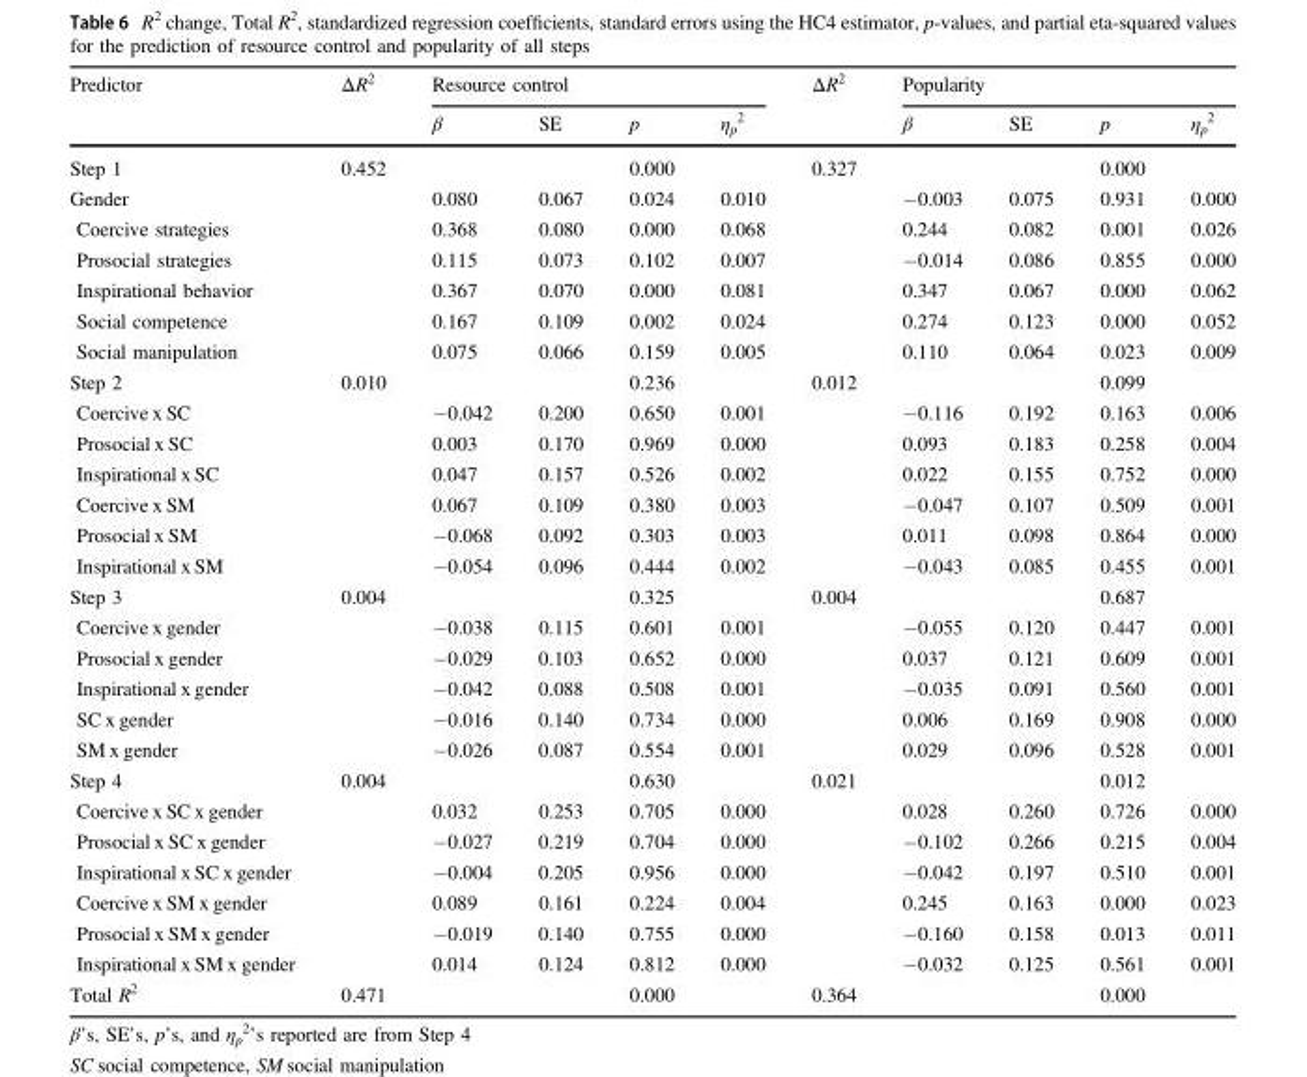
<table><thead><tr><td rowspan="2">Predictor</td><td rowspan="2">ΔR<sup>2</sup></td><td colspan="4">Resource control</td><td rowspan="2">ΔR<sup>2</sup></td><td colspan="4">Popularity</td></tr><tr><td>β</td><td>SE</td><td>p</td><td>η<sub>p</sub> <sup>2</sup></td><td>β</td><td>SE</td><td>p</td><td>η<sub>p</sub> <sup>2</sup></td></tr></thead><tbody><tr><td>Step 1</td><td>0.452</td><td></td><td></td><td>0.000</td><td></td><td>0.327</td><td></td><td></td><td>0.000</td><td></td></tr><tr><td>Gender</td><td></td><td>0.080</td><td>0.067</td><td>0.024</td><td>0.010</td><td></td><td>−0.003</td><td>0.075</td><td>0.931</td><td>0.000</td></tr><tr><td>Coercive strategies</td><td></td><td>0.368</td><td>0.080</td><td>0.000</td><td>0.068</td><td></td><td>0.244</td><td>0.082</td><td>0.001</td><td>0.026</td></tr><tr><td>Prosocial strategies</td><td></td><td>0.115</td><td>0.073</td><td>0.102</td><td>0.007</td><td></td><td>−0.014</td><td>0.086</td><td>0.855</td><td>0.000</td></tr><tr><td>Inspirational behavior</td><td></td><td>0.367</td><td>0.070</td><td>0.000</td><td>0.081</td><td></td><td>0.347</td><td>0.067</td><td>0.000</td><td>0.062</td></tr><tr><td>Social competence</td><td></td><td>0.167</td><td>0.109</td><td>0.002</td><td>0.024</td><td></td><td>0.274</td><td>0.123</td><td>0.000</td><td>0.052</td></tr><tr><td>Social manipulation</td><td></td><td>0.075</td><td>0.066</td><td>0.159</td><td>0.005</td><td></td><td>0.110</td><td>0.064</td><td>0.023</td><td>0.009</td></tr><tr><td>Step 2</td><td>0.010</td><td></td><td></td><td>0.236</td><td></td><td>0.012</td><td></td><td></td><td>0.099</td><td></td></tr><tr><td>Coercive x SC</td><td></td><td>−0.042</td><td>0.200</td><td>0.650</td><td>0.001</td><td></td><td>−0.116</td><td>0.192</td><td>0.163</td><td>0.006</td></tr><tr><td>Prosocial x SC</td><td></td><td>0.003</td><td>0.170</td><td>0.969</td><td>0.000</td><td></td><td>0.093</td><td>0.183</td><td>0.258</td><td>0.004</td></tr><tr><td>Inspirational x SC</td><td></td><td>0.047</td><td>0.157</td><td>0.526</td><td>0.002</td><td></td><td>0.022</td><td>0.155</td><td>0.752</td><td>0.000</td></tr><tr><td>Coercive x SM</td><td></td><td>0.067</td><td>0.109</td><td>0.380</td><td>0.003</td><td></td><td>−0.047</td><td>0.107</td><td>0.509</td><td>0.001</td></tr><tr><td>Prosocial x SM</td><td></td><td>−0.068</td><td>0.092</td><td>0.303</td><td>0.003</td><td></td><td>0.011</td><td>0.098</td><td>0.864</td><td>0.000</td></tr><tr><td>Inspirational x SM</td><td></td><td>−0.054</td><td>0.096</td><td>0.444</td><td>0.002</td><td></td><td>−0.043</td><td>0.085</td><td>0.455</td><td>0.001</td></tr><tr><td>Step 3</td><td>0.004</td><td></td><td></td><td>0.325</td><td></td><td>0.004</td><td></td><td></td><td>0.687</td><td></td></tr><tr><td>Coercive x gender</td><td></td><td>−0.038</td><td>0.115</td><td>0.601</td><td>0.001</td><td></td><td>−0.055</td><td>0.120</td><td>0.447</td><td>0.001</td></tr><tr><td>Prosocial x gender</td><td></td><td>−0.029</td><td>0.103</td><td>0.652</td><td>0.000</td><td></td><td>0.037</td><td>0.121</td><td>0.609</td><td>0.001</td></tr><tr><td>Inspirational x gender</td><td></td><td>−0.042</td><td>0.088</td><td>0.508</td><td>0.001</td><td></td><td>−0.035</td><td>0.091</td><td>0.560</td><td>0.001</td></tr><tr><td>SC x gender</td><td></td><td>−0.016</td><td>0.140</td><td>0.734</td><td>0.000</td><td></td><td>0.006</td><td>0.169</td><td>0.908</td><td>0.000</td></tr><tr><td>SM x gender</td><td></td><td>−0.026</td><td>0.087</td><td>0.554</td><td>0.001</td><td></td><td>0.029</td><td>0.096</td><td>0.528</td><td>0.001</td></tr><tr><td>Step 4</td><td>0.004</td><td></td><td></td><td>0.630</td><td></td><td>0.021</td><td></td><td></td><td>0.012</td><td></td></tr><tr><td>Coercive x SC x gender</td><td></td><td>0.032</td><td>0.253</td><td>0.705</td><td>0.000</td><td></td><td>0.028</td><td>0.260</td><td>0.726</td><td>0.000</td></tr><tr><td>Prosocial x SC x gender</td><td></td><td>−0.027</td><td>0.219</td><td>0.704</td><td>0.000</td><td></td><td>−0.102</td><td>0.266</td><td>0.215</td><td>0.004</td></tr><tr><td>Inspirational x SC x gender</td><td></td><td>−0.004</td><td>0.205</td><td>0.956</td><td>0.000</td><td></td><td>−0.042</td><td>0.197</td><td>0.510</td><td>0.001</td></tr><tr><td>Coercive x SM x gender</td><td></td><td>0.089</td><td>0.161</td><td>0.224</td><td>0.004</td><td></td><td>0.245</td><td>0.163</td><td>0.000</td><td>0.023</td></tr><tr><td>Prosocial x SM x gender</td><td></td><td>−0.019</td><td>0.140</td><td>0.755</td><td>0.000</td><td></td><td>−0.160</td><td>0.158</td><td>0.013</td><td>0.011</td></tr><tr><td>Inspirational x SM x gender</td><td></td><td>0.014</td><td>0.124</td><td>0.812</td><td>0.000</td><td></td><td>−0.032</td><td>0.125</td><td>0.561</td><td>0.001</td></tr><tr><td>Total R<sup>2</sup></td><td>0.471</td><td></td><td></td><td>0.000</td><td></td><td>0.364</td><td></td><td></td><td>0.000</td><td></td></tr></tbody></table>